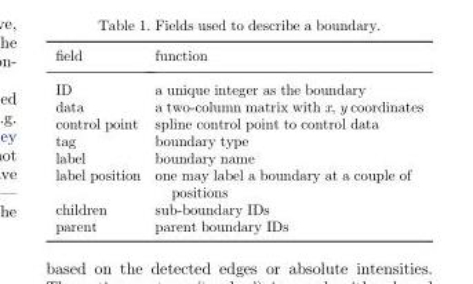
<table><thead><tr><td>field</td><td>function</td></tr></thead><tbody><tr><td>ID</td><td>a unique integer as the boundary</td></tr><tr><td>data</td><td>a two-column matrix with x, y coordinates</td></tr><tr><td>control point</td><td>spline control point to control data</td></tr><tr><td>tag</td><td>boundary type</td></tr><tr><td>label</td><td>boundary name</td></tr><tr><td>label position</td><td>one may label a boundary at a couple of positions</td></tr><tr><td>children</td><td>sub-boundary IDs</td></tr><tr><td>parent</td><td>parent boundary IDs</td></tr></tbody></table>